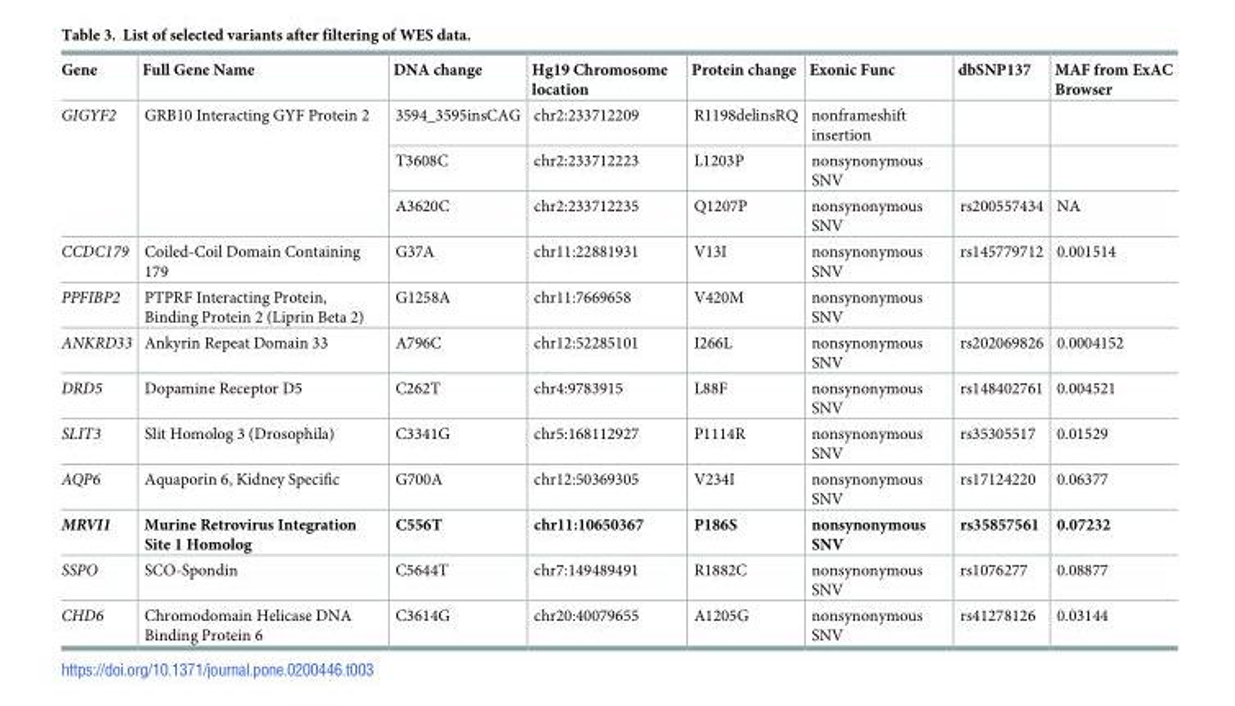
<table><thead><tr><td>Gene</td><td>Full Gene Name</td><td>DNA change</td><td>Hg19 Chromosome location</td><td>Protein change</td><td>Exonic Func</td><td>dbSNP137</td><td>MAF from ExAC Browser</td></tr></thead><tbody><tr><td rowspan="3">GIGYF2</td><td rowspan="3">GRB10 Interacting GYF Protein 2</td><td>3594_3595insCAG</td><td>chr2:233712209</td><td>R1198delinsRQ</td><td>nonframeshift insertion</td><td></td><td></td></tr><tr><td>T3608C</td><td>chr2:233712223</td><td>L1203P</td><td>nonsynonymous SNV</td><td></td><td></td></tr><tr><td>A3620C</td><td>chr2:233712235</td><td>Q1207P</td><td>nonsynonymous SNV</td><td>rs200557434</td><td>NA</td></tr><tr><td>CCDC179</td><td>Coiled-Coil Domain Containing 179</td><td>G37A</td><td>chr11:22881931</td><td>V13I</td><td>nonsynonymous SNV</td><td>rs145779712</td><td>0.001514</td></tr><tr><td>PPFIBP2</td><td>PTPRF Interacting Protein, Binding Protein 2 (Liprin Beta 2)</td><td>G1258A</td><td>chr11:7669658</td><td>V420M</td><td>nonsynonymous SNV</td><td></td><td></td></tr><tr><td>ANKRD33</td><td>Ankyrin Repeat Domain 33</td><td>A796C</td><td>chr12:52285101</td><td>I266L</td><td>nonsynonymous SNV</td><td>rs202069826</td><td>0.0004152</td></tr><tr><td>DRD5</td><td>Dopamine Receptor D5</td><td>C262T</td><td>chr4:9783915</td><td>L88F</td><td>nonsynonymous SNV</td><td>rs148402761</td><td>0.004521</td></tr><tr><td>SLIT3</td><td>Slit Homolog 3 (Drosophila)</td><td>C3341G</td><td>chr5:168112927</td><td>P1114R</td><td>nonsynonymous SNV</td><td>rs35305517</td><td>0.01529</td></tr><tr><td>AQP6</td><td>Aquaporin 6, Kidney Specific</td><td>G700A</td><td>chr12:50369305</td><td>V234I</td><td>nonsynonymous SNV</td><td>rs17124220</td><td>0.06377</td></tr><tr><td>MRVI1</td><td>Murine Retrovirus Integration Site 1 Homolog</td><td>C556T</td><td>chr11:10650367</td><td>P186S</td><td>nonsynonymous SNV</td><td>rs35857561</td><td>0.07232</td></tr><tr><td>SSPO</td><td>SCO-Spondin</td><td>C5644T</td><td>chr7:149489491</td><td>R1882C</td><td>nonsynonymous SNV</td><td>rs1076277</td><td>0.08877</td></tr><tr><td>CHD6</td><td>Chromodomain Helicase DNA Binding Protein 6</td><td>C3614G</td><td>chr20:40079655</td><td>A1205G</td><td>nonsynonymous SNV</td><td>rs41278126</td><td>0.03144</td></tr></tbody></table>